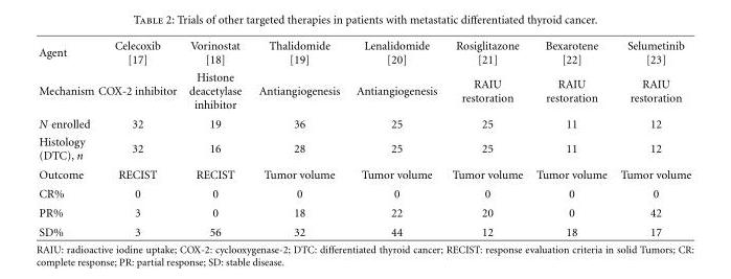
<table><tbody><tr><td>Agent</td><td>Celecoxib [17]</td><td>Vorinostat [18]</td><td>Thalidomide [19]</td><td>Lenalidomide [20]</td><td>Rosiglitazone [21]</td><td>Bexarotene [22]</td><td>Selumetinib [23]</td></tr><tr><td>Mechanism</td><td>COX-2 inhibitor</td><td>Histone deacetylase inhibitor</td><td>Antiangiogenesis</td><td>Antiangiogenesis</td><td>RAIU restoration</td><td>RAIU restoration</td><td>RAIU restoration</td></tr><tr><td>N enrolled</td><td>32</td><td>19</td><td>36</td><td>25</td><td>25</td><td>11</td><td>12</td></tr><tr><td>Histology (DTC), n</td><td>32</td><td>16</td><td>28</td><td>25</td><td>25</td><td>11</td><td>12</td></tr><tr><td>Outcome</td><td>RECIST</td><td>RECIST</td><td>Tumor volume</td><td>Tumor volume</td><td>Tumor volume</td><td>Tumor volume</td><td>Tumor volume</td></tr><tr><td>CR%</td><td>0</td><td>0</td><td>0</td><td>0</td><td>0</td><td>0</td><td>0</td></tr><tr><td>PR%</td><td>3</td><td>0</td><td>18</td><td>22</td><td>20</td><td>0</td><td>42</td></tr><tr><td>SD%</td><td>3</td><td>56</td><td>32</td><td>44</td><td>12</td><td>18</td><td>17</td></tr></tbody></table>